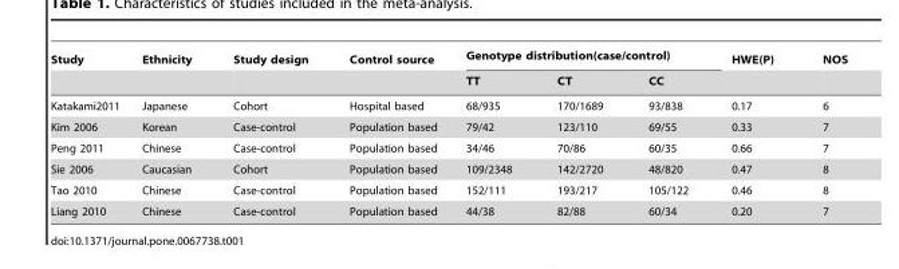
<table><thead><tr><td rowspan="2">Study</td><td rowspan="2">Ethnicity</td><td rowspan="2">Study design</td><td rowspan="2">Control source</td><td colspan="3">Genotype distribution(case/control)</td><td rowspan="2">HWE(P)</td><td rowspan="2">NOS</td></tr><tr><td>TT</td><td>CT</td><td>CC</td></tr></thead><tbody><tr><td>Katakami2011</td><td>Japanese</td><td>Cohort</td><td>Hospital based</td><td>68/935</td><td>170/1689</td><td>93/838</td><td>0.17</td><td>6</td></tr><tr><td>Kim 2006</td><td>Korean</td><td>Case-control</td><td>Population based</td><td>79/42</td><td>123/110</td><td>69/55</td><td>0.33</td><td>7</td></tr><tr><td>Peng 2011</td><td>Chinese</td><td>Case-control</td><td>Population based</td><td>34/46</td><td>70/86</td><td>60/35</td><td>0.66</td><td>7</td></tr><tr><td>Sie 2006</td><td>Caucasian</td><td>Cohort</td><td>Population based</td><td>109/2348</td><td>142/2720</td><td>48/820</td><td>0.47</td><td>8</td></tr><tr><td>Tao 2010</td><td>Chinese</td><td>Case-control</td><td>Population based</td><td>152/111</td><td>193/217</td><td>105/122</td><td>0.46</td><td>8</td></tr><tr><td>Liang 2010</td><td>Chinese</td><td>Case-control</td><td>Population based</td><td>44/38</td><td>82/88</td><td>60/34</td><td>0.20</td><td>7</td></tr></tbody></table>